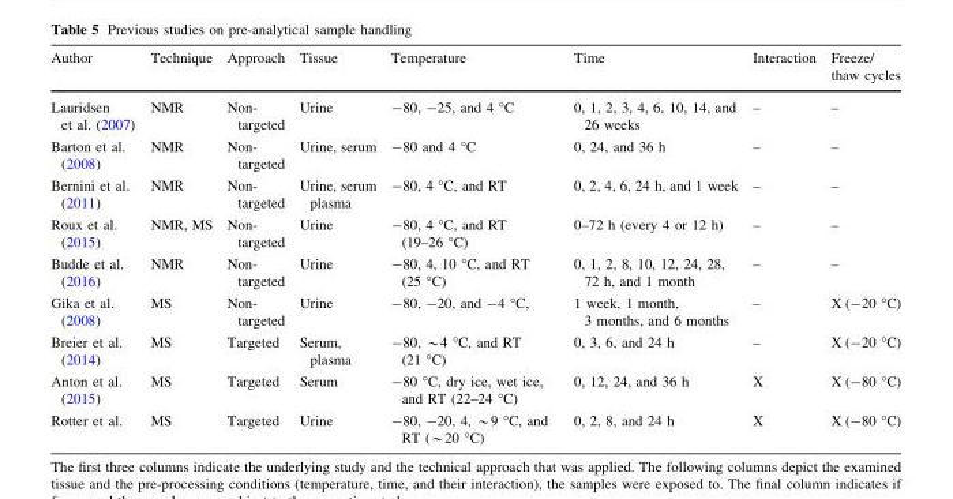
<table><thead><tr><td>Author</td><td>Technique</td><td>Approach</td><td>Tissue</td><td>Temperature</td><td>Time</td><td>Interaction</td><td>Freeze/ thaw cycles</td></tr></thead><tbody><tr><td>Lauridsen et al. (2007)</td><td>NMR</td><td>Non- targeted</td><td>Urine</td><td>-80, -25, and 4 °C</td><td>0, 1, 2, 3, 4, 6, 10, 14, and 26 weeks</td><td>–</td><td>–</td></tr><tr><td>Barton et al. (2008)</td><td>NMR</td><td>Non- targeted</td><td>Urine, serum</td><td>-80 and 4 °C</td><td>0, 24, and 36 h</td><td>–</td><td>–</td></tr><tr><td>Bernini et al. (2011)</td><td>NMR</td><td>Non- targeted</td><td>Urine, serum plasma</td><td>-80, 4 °C, and RT</td><td>0, 2, 4, 6, 24 h, and 1 week</td><td>–</td><td>–</td></tr><tr><td>Roux et al. (2015)</td><td>NMR, MS</td><td>Non- targeted</td><td>Urine</td><td>-80, 4 °C, and RT (19–26 °C)</td><td>0–72 h (every 4 or 12 h)</td><td>–</td><td>–</td></tr><tr><td>Budde et al. (2016)</td><td>NMR</td><td>Non- targeted</td><td>Urine</td><td>-80, 4, 10 °C, and RT (25 °C)</td><td>0, 1, 2, 8, 10, 12, 24, 28, 72 h, and 1 month</td><td>–</td><td>–</td></tr><tr><td>Gika et al. (2008)</td><td>MS</td><td>Non- targeted</td><td>Urine</td><td>-80, -20, and -4 °C,</td><td>1 week, 1 month, 3 months, and 6 months</td><td>–</td><td>X (-20 °C)</td></tr><tr><td>Breier et al. (2014)</td><td>MS</td><td>Targeted</td><td>Serum, plasma</td><td>-80, *4 �C, and RT (21 �C)</td><td>0, 3, 6, and 24 h</td><td>–</td><td>X (-20 °C)</td></tr><tr><td>Anton et al. (2015)</td><td>MS</td><td>Targeted</td><td>Serum</td><td>-80 °C, dry ice, wet ice, and RT (22–24 °C)</td><td>0, 12, 24, and 36 h</td><td>X</td><td>X (-80 °C)</td></tr><tr><td>Rotter et al.</td><td>MS</td><td>Targeted</td><td>Urine</td><td>-80, -20, 4, *9 �C, and RT (*20 �C)</td><td>0, 2, 8, and 24 h</td><td>X</td><td>X (-80 °C)</td></tr></tbody></table>